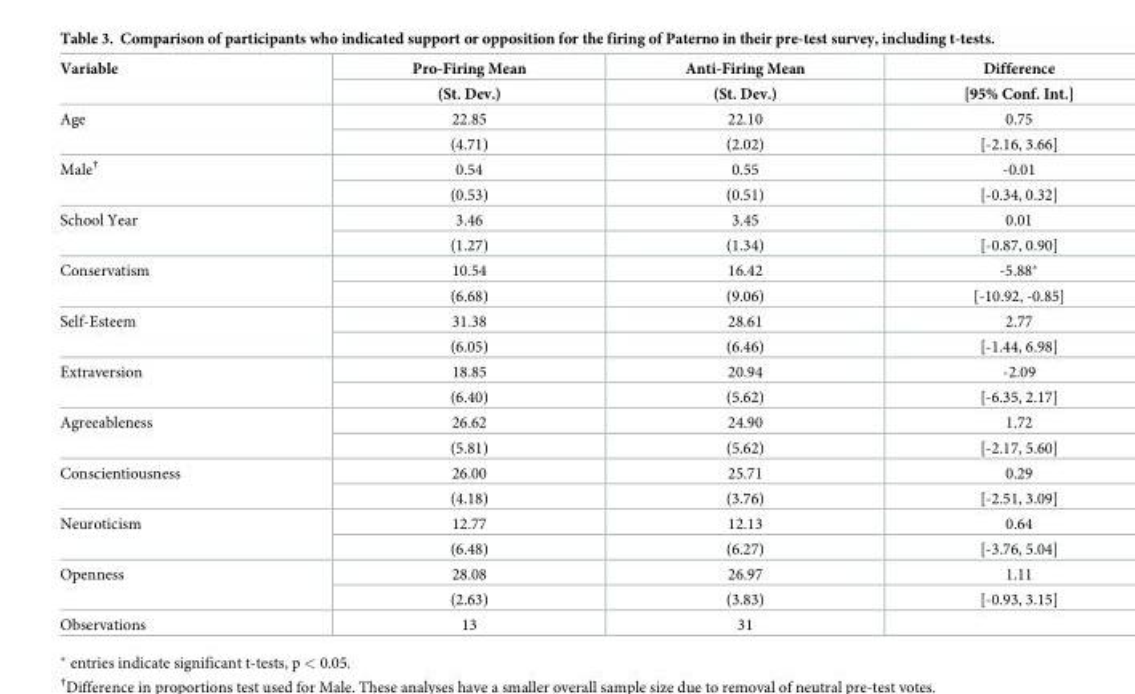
<table><thead><tr><td rowspan="2">Variable</td><td rowspan="2">Pro-Firing Mean (St. Dev.)</td><td rowspan="2">Anti-Firing Mean (St. Dev.)</td><td rowspan="2">Difference [95% Conf. Int.]</td></tr><tr></tr></thead><tbody><tr><td rowspan="2">Age</td><td>22.85</td><td>22.10</td><td>0.75</td></tr><tr><td>(4.71)</td><td>(2.02)</td><td>[-2.16, 3.66]</td></tr><tr><td rowspan="2">Male<sup>†</sup></td><td>0.54</td><td>0.55</td><td>-0.01</td></tr><tr><td>(0.53)</td><td>(0.51)</td><td>[-0.34, 0.32]</td></tr><tr><td rowspan="2">School Year</td><td>3.46</td><td>3.45</td><td>0.01</td></tr><tr><td>(1.27)</td><td>(1.34)</td><td>[-0.87, 0.90]</td></tr><tr><td rowspan="2">Conservatism</td><td>10.54</td><td>16.42</td><td>-5.88*</td></tr><tr><td>(6.68)</td><td>(9.06)</td><td>[-10.92, -0.85]</td></tr><tr><td rowspan="2">Self-Esteem</td><td>31.38</td><td>28.61</td><td>2.77</td></tr><tr><td>(6.05)</td><td>(6.46)</td><td>[-1.44, 6.98]</td></tr><tr><td rowspan="2">Extraversion</td><td>18.85</td><td>20.94</td><td>-2.09</td></tr><tr><td>(6.40)</td><td>(5.62)</td><td>[-6.35, 2.17]</td></tr><tr><td rowspan="2">Agreeableness</td><td>26.62</td><td>24.90</td><td>1.72</td></tr><tr><td>(5.81)</td><td>(5.62)</td><td>[-2.17, 5.60]</td></tr><tr><td rowspan="2">Conscientiousness</td><td>26.00</td><td>25.71</td><td>0.29</td></tr><tr><td>(4.18)</td><td>(3.76)</td><td>[-2.51, 3.09]</td></tr><tr><td rowspan="2">Neuroticism</td><td>12.77</td><td>12.13</td><td>0.64</td></tr><tr><td>(6.48)</td><td>(6.27)</td><td>[-3.76, 5.04]</td></tr><tr><td rowspan="2">Openness</td><td>28.08</td><td>26.97</td><td>1.11</td></tr><tr><td>(2.63)</td><td>(3.83)</td><td>[-0.93, 3.15]</td></tr><tr><td>Observations</td><td>13</td><td>31</td><td></td></tr></tbody></table>